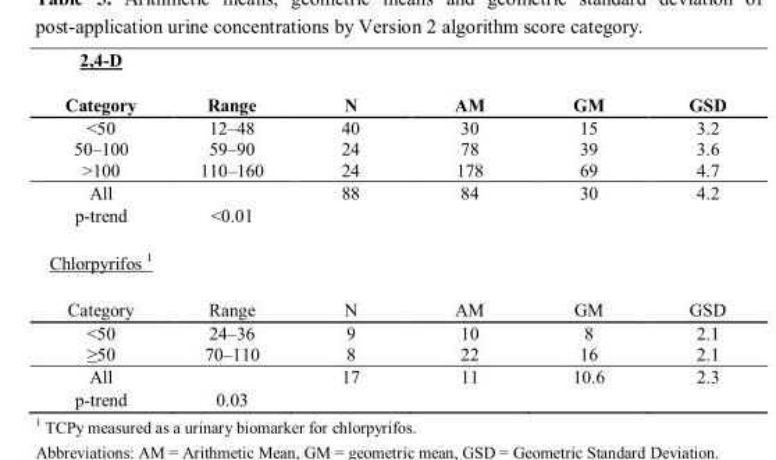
<table><thead><tr><td rowspan="2">2,4-D Category</td><td rowspan="2">Range</td><td rowspan="2">N</td><td rowspan="2">AM</td><td rowspan="2">GM</td><td rowspan="2">GSD</td></tr><tr></tr></thead><tbody><tr><td>&lt;50</td><td>12–48</td><td>40</td><td>30</td><td>15</td><td>3.2</td></tr><tr><td>50–100</td><td>59–90</td><td>24</td><td>78</td><td>39</td><td>3.6</td></tr><tr><td>&gt;100</td><td>110–160</td><td>24</td><td>178</td><td>69</td><td>4.7</td></tr><tr><td>All</td><td></td><td>88</td><td>84</td><td>30</td><td>4.2</td></tr><tr><td>p-trend</td><td>&lt;0.01</td><td></td><td></td><td></td><td></td></tr><tr><td colspan="6">Chlorpyrifos <sup>1</sup></td></tr><tr><td>Category</td><td>Range</td><td>N</td><td>AM</td><td>GM</td><td>GSD</td></tr><tr><td>&lt;50</td><td>24–36</td><td>9</td><td>10</td><td>8</td><td>2.1</td></tr><tr><td>≥50</td><td>70–110</td><td>8</td><td>22</td><td>16</td><td>2.1</td></tr><tr><td>All</td><td></td><td>17</td><td>11</td><td>10.6</td><td>2.3</td></tr><tr><td>p-trend</td><td>0.03</td><td></td><td></td><td></td><td></td></tr></tbody></table>